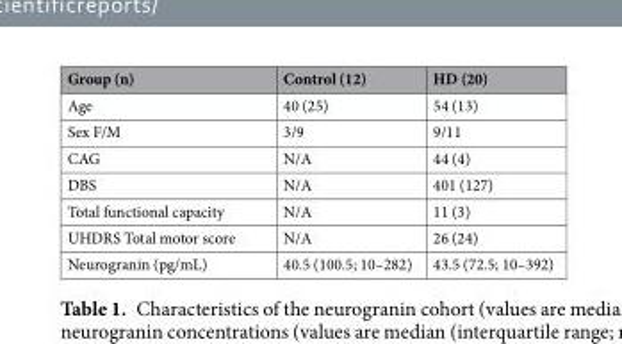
<table><thead><tr><td>Group (n)</td><td>Control (12)</td><td>HD (20)</td></tr></thead><tbody><tr><td>Age</td><td>40 (25)</td><td>54 (13)</td></tr><tr><td>Sex F/M</td><td>3/9</td><td>9/11</td></tr><tr><td>CAG</td><td>N/A</td><td>44 (4)</td></tr><tr><td>DBS</td><td>N/A</td><td>401 (127)</td></tr><tr><td>Total functional capacity</td><td>N/A</td><td>11 (3)</td></tr><tr><td>UHDRS Total motor score</td><td>N/A</td><td>26 (24)</td></tr><tr><td>Neurogranin (pg/mL)</td><td>40.5 (100.5; 10–282)</td><td>43.5 (72.5; 10–392)</td></tr></tbody></table>